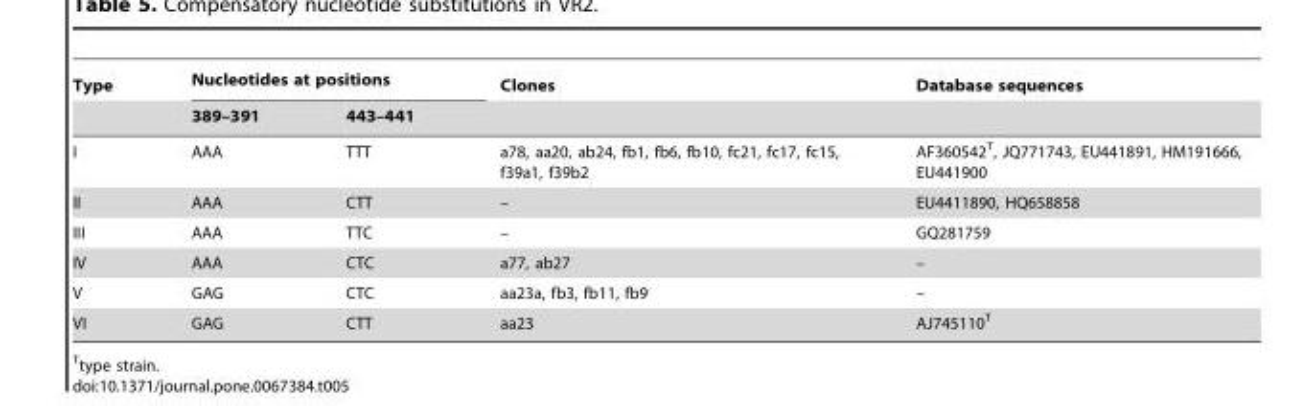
<table><thead><tr><td rowspan="2">Type</td><td colspan="2">Nucleotides at positions</td><td rowspan="2">Clones</td><td rowspan="2">Database sequences</td></tr><tr><td>389–391</td><td>443–441</td></tr></thead><tbody><tr><td>I</td><td>AAA</td><td>TTT</td><td>a78, aa20, ab24, fb1, fb6, fb10, fc21, fc17, fc15, f39a1, f39b2</td><td>AF360542<sup>T</sup>, JQ771743, EU441891, HM191666, EU441900</td></tr><tr><td>II</td><td>AAA</td><td>CTT</td><td>–</td><td>EU4411890, HQ658858</td></tr><tr><td>III</td><td>AAA</td><td>TTC</td><td>–</td><td>GQ281759</td></tr><tr><td>IV</td><td>AAA</td><td>CTC</td><td>a77, ab27</td><td>–</td></tr><tr><td>V</td><td>GAG</td><td>CTC</td><td>aa23a, fb3, fb11, fb9</td><td>–</td></tr><tr><td>VI</td><td>GAG</td><td>CTT</td><td>aa23</td><td>AJ745110<sup>T</sup></td></tr></tbody></table>